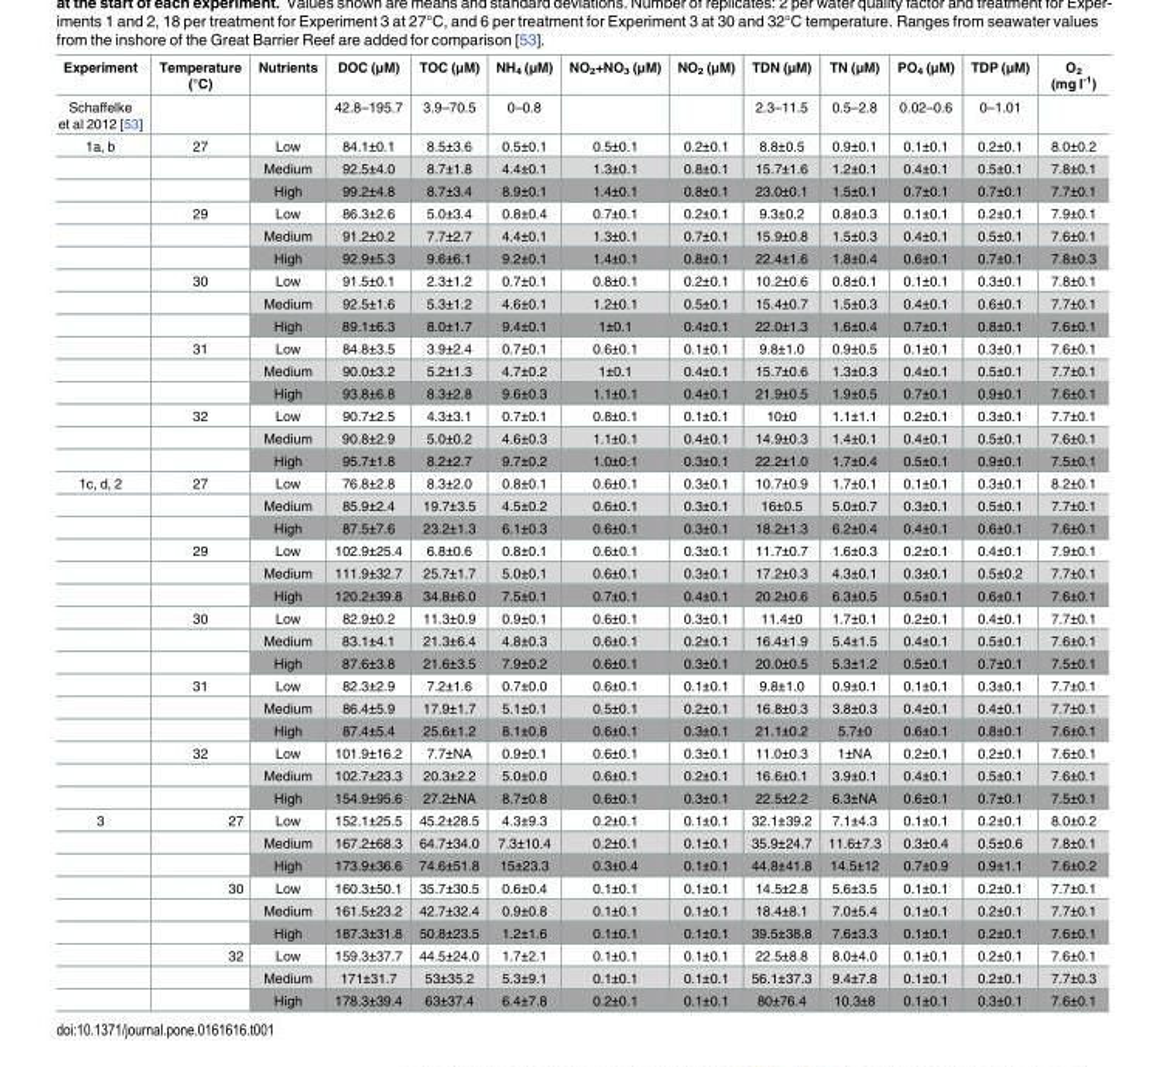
<table><thead><tr><td>Experiment</td><td>Temperature (°C)</td><td>Nutrients</td><td>DOC (μM)</td><td>TOC (μM)</td><td>NH<sub>4</sub> (μM)</td><td>NO<sub>2</sub>+NO<sub>3</sub> (μM)</td><td>NO<sub>2</sub> (μM)</td><td>TDN (μM)</td><td>TN (μM)</td><td>PO<sub>4</sub> (μM)</td><td>TDP (μM)</td><td>O<sub>2</sub> (mg l<sup>-1</sup>)</td></tr></thead><tbody><tr><td>Schaffelke et al 2012 [53]</td><td></td><td></td><td>42.8–195.7</td><td>3.9–70.5</td><td>0–0.8</td><td></td><td></td><td>2.3–11.5</td><td>0.5–2.8</td><td>0.02–0.6</td><td>0–1.01</td><td></td></tr><tr><td rowspan="15">1a, b</td><td>27</td><td>Low</td><td>84.1±0.1</td><td>8.5±3.6</td><td>0.5±0.1</td><td>0.5±0.1</td><td>0.2±0.1</td><td>8.8±0.5</td><td>0.9±0.1</td><td>0.1±0.1</td><td>0.2±0.1</td><td>8.0±0.2</td></tr><tr><td></td><td>Medium</td><td>92.5±4.0</td><td>8.7±1.8</td><td>4.4±0.1</td><td>1.3±0.1</td><td>0.8±0.1</td><td>15.7±1.6</td><td>1.2±0.1</td><td>0.4±0.1</td><td>0.5±0.1</td><td>7.8±0.1</td></tr><tr><td></td><td>High</td><td>99.2±4.8</td><td>8.7±3.4</td><td>8.9±0.1</td><td>1.4±0.1</td><td>0.8±0.1</td><td>23.0±0.1</td><td>1.5±0.1</td><td>0.7±0.1</td><td>0.7±0.1</td><td>7.7±0.1</td></tr><tr><td>29</td><td>Low</td><td>86.3±2.6</td><td>5.0±3.4</td><td>0.8±0.4</td><td>0.7±0.1</td><td>0.2±0.1</td><td>9.3±0.2</td><td>0.8±0.3</td><td>0.1±0.1</td><td>0.2±0.1</td><td>7.9±0.1</td></tr><tr><td></td><td>Medium</td><td>91.2±0.2</td><td>7.7±2.7</td><td>4.4±0.1</td><td>1.3±0.1</td><td>0.7±0.1</td><td>15.9±0.8</td><td>1.5±0.3</td><td>0.4±0.1</td><td>0.5±0.1</td><td>7.6±0.1</td></tr><tr><td></td><td>High</td><td>92.9±5.3</td><td>9.6±6.1</td><td>9.2±0.1</td><td>1.4±0.1</td><td>0.8±0.1</td><td>22.4±1.6</td><td>1.8±0.4</td><td>0.6±0.1</td><td>0.7±0.1</td><td>7.8±0.3</td></tr><tr><td>30</td><td>Low</td><td>91.5±0.1</td><td>2.3±1.2</td><td>0.7±0.1</td><td>0.8±0.1</td><td>0.2±0.1</td><td>10.2±0.6</td><td>0.8±0.1</td><td>0.1±0.1</td><td>0.3±0.1</td><td>7.8±0.1</td></tr><tr><td></td><td>Medium</td><td>92.5±1.6</td><td>5.3±1.2</td><td>4.6±0.1</td><td>1.2±0.1</td><td>0.5±0.1</td><td>15.4±0.7</td><td>1.5±0.3</td><td>0.4±0.1</td><td>0.6±0.1</td><td>7.7±0.1</td></tr><tr><td></td><td>High</td><td>89.1±6.3</td><td>8.0±1.7</td><td>9.4±0.1</td><td>1±0.1</td><td>0.4±0.1</td><td>22.0±1.3</td><td>1.6±0.4</td><td>0.7±0.1</td><td>0.8±0.1</td><td>7.6±0.1</td></tr><tr><td>31</td><td>Low</td><td>84.8±3.5</td><td>3.9±2.4</td><td>0.7±0.1</td><td>0.6±0.1</td><td>0.1±0.1</td><td>9.8±1.0</td><td>0.9±0.5</td><td>0.1±0.1</td><td>0.3±0.1</td><td>7.6±0.1</td></tr><tr><td></td><td>Medium</td><td>90.0±3.2</td><td>5.2±1.3</td><td>4.7±0.2</td><td>1±0.1</td><td>0.4±0.1</td><td>15.7±0.6</td><td>1.3±0.3</td><td>0.4±0.1</td><td>0.5±0.1</td><td>7.7±0.1</td></tr><tr><td></td><td>High</td><td>93.8±6.8</td><td>8.3±2.8</td><td>9.6±0.3</td><td>1.1±0.1</td><td>0.4±0.1</td><td>21.9±0.5</td><td>1.9±0.5</td><td>0.7±0.1</td><td>0.9±0.1</td><td>7.6±0.1</td></tr><tr><td>32</td><td>Low</td><td>90.7±2.5</td><td>4.3±3.1</td><td>0.7±0.1</td><td>0.8±0.1</td><td>0.1±0.1</td><td>10±0</td><td>1.1±1.1</td><td>0.2±0.1</td><td>0.3±0.1</td><td>7.7±0.1</td></tr><tr><td></td><td>Medium</td><td>90.8±2.9</td><td>5.0±0.2</td><td>4.6±0.3</td><td>1.1±0.1</td><td>0.4±0.1</td><td>14.9±0.3</td><td>1.4±0.1</td><td>0.4±0.1</td><td>0.5±0.1</td><td>7.6±0.1</td></tr><tr><td></td><td>High</td><td>95.7±1.8</td><td>8.2±2.7</td><td>9.7±0.2</td><td>1.0±0.1</td><td>0.3±0.1</td><td>22.2±1.0</td><td>1.7±0.4</td><td>0.5±0.1</td><td>0.9±0.1</td><td>7.5±0.1</td></tr><tr><td rowspan="15">1c, d, 2</td><td>27</td><td>Low</td><td>76.8±2.8</td><td>8.3±2.0</td><td>0.8±0.1</td><td>0.6±0.1</td><td>0.3±0.1</td><td>10.7±0.9</td><td>1.7±0.1</td><td>0.1±0.1</td><td>0.3±0.1</td><td>8.2±0.1</td></tr><tr><td></td><td>Medium</td><td>85.9±2.4</td><td>19.7±3.5</td><td>4.5±0.2</td><td>0.6±0.1</td><td>0.3±0.1</td><td>16±0.5</td><td>5.0±0.7</td><td>0.3±0.1</td><td>0.5±0.1</td><td>7.7±0.1</td></tr><tr><td></td><td>High</td><td>87.5±7.6</td><td>23.2±1.3</td><td>6.1±0.3</td><td>0.6±0.1</td><td>0.3±0.1</td><td>18.2±1.3</td><td>6.2±0.4</td><td>0.4±0.1</td><td>0.6±0.1</td><td>7.6±0.1</td></tr><tr><td>29</td><td>Low</td><td>102.9±25.4</td><td>6.8±0.6</td><td>0.8±0.1</td><td>0.6±0.1</td><td>0.3±0.1</td><td>11.7±0.7</td><td>1.6±0.3</td><td>0.2±0.1</td><td>0.4±0.1</td><td>7.9±0.1</td></tr><tr><td></td><td>Medium</td><td>111.9±32.7</td><td>25.7±1.7</td><td>5.0±0.1</td><td>0.6±0.1</td><td>0.3±0.1</td><td>17.2±0.3</td><td>4.3±0.1</td><td>0.3±0.1</td><td>0.5±0.2</td><td>7.7±0.1</td></tr><tr><td></td><td>High</td><td>120.2±39.8</td><td>34.8±6.0</td><td>7.5±0.1</td><td>0.7±0.1</td><td>0.4±0.1</td><td>20.2±0.6</td><td>6.3±0.5</td><td>0.5±0.1</td><td>0.6±0.1</td><td>7.6±0.1</td></tr><tr><td>30</td><td>Low</td><td>82.9±0.2</td><td>11.3±0.9</td><td>0.9±0.1</td><td>0.6±0.1</td><td>0.3±0.1</td><td>11.4±0</td><td>1.7±0.1</td><td>0.2±0.1</td><td>0.4±0.1</td><td>7.7±0.1</td></tr><tr><td></td><td>Medium</td><td>83.1±4.1</td><td>21.3±6.4</td><td>4.8±0.3</td><td>0.6±0.1</td><td>0.2±0.1</td><td>16.4±1.9</td><td>5.4±1.5</td><td>0.4±0.1</td><td>0.5±0.1</td><td>7.6±0.1</td></tr><tr><td></td><td>High</td><td>87.6±3.8</td><td>21.6±3.5</td><td>7.9±0.2</td><td>0.6±0.1</td><td>0.3±0.1</td><td>20.0±0.5</td><td>5.3±1.2</td><td>0.5±0.1</td><td>0.7±0.1</td><td>7.5±0.1</td></tr><tr><td>31</td><td>Low</td><td>82.3±2.9</td><td>7.2±1.6</td><td>0.7±0.0</td><td>0.6±0.1</td><td>0.1±0.1</td><td>9.8±1.0</td><td>0.9±0.1</td><td>0.1±0.1</td><td>0.3±0.1</td><td>7.7±0.1</td></tr><tr><td></td><td>Medium</td><td>86.4±5.9</td><td>17.9±1.7</td><td>5.1±0.1</td><td>0.5±0.1</td><td>0.2±0.1</td><td>16.8±0.3</td><td>3.8±0.3</td><td>0.4±0.1</td><td>0.4±0.1</td><td>7.7±0.1</td></tr><tr><td></td><td>High</td><td>87.4±5.4</td><td>25.6±1.2</td><td>8.1±0.8</td><td>0.6±0.1</td><td>0.3±0.1</td><td>21.1±0.2</td><td>5.7±0</td><td>0.6±0.1</td><td>0.8±0.1</td><td>7.6±0.1</td></tr><tr><td>32</td><td>Low</td><td>101.9±16.2</td><td>7.7±NA</td><td>0.9±0.1</td><td>0.6±0.1</td><td>0.3±0.1</td><td>11.0±0.3</td><td>1±NA</td><td>0.2±0.1</td><td>0.2±0.1</td><td>7.6±0.1</td></tr><tr><td></td><td>Medium</td><td>102.7±23.3</td><td>20.3±2.2</td><td>5.0±0.0</td><td>0.6±0.1</td><td>0.2±0.1</td><td>16.6±0.1</td><td>3.9±0.1</td><td>0.4±0.1</td><td>0.5±0.1</td><td>7.6±0.1</td></tr><tr><td></td><td>High</td><td>154.9±95.6</td><td>27.2±NA</td><td>8.7±0.8</td><td>0.6±0.1</td><td>0.3±0.1</td><td>22.5±2.2</td><td>6.3±NA</td><td>0.6±0.1</td><td>0.7±0.1</td><td>7.5±0.1</td></tr><tr><td rowspan="9">3</td><td>27</td><td>Low</td><td>152.1±25.5</td><td>45.2±28.5</td><td>4.3±9.3</td><td>0.2±0.1</td><td>0.1±0.1</td><td>32.1±39.2</td><td>7.1±4.3</td><td>0.1±0.1</td><td>0.2±0.1</td><td>8.0±0.2</td></tr><tr><td></td><td>Medium</td><td>167.2±68.3</td><td>64.7±34.0</td><td>7.3±10.4</td><td>0.2±0.1</td><td>0.1±0.1</td><td>35.9±24.7</td><td>11.6±7.3</td><td>0.3±0.4</td><td>0.5±0.6</td><td>7.8±0.1</td></tr><tr><td></td><td>High</td><td>173.9±36.6</td><td>74.6±51.8</td><td>15±23.3</td><td>0.3±0.4</td><td>0.1±0.1</td><td>44.8±41.8</td><td>14.5±12</td><td>0.7±0.9</td><td>0.9±1.1</td><td>7.6±0.2</td></tr><tr><td>30</td><td>Low</td><td>160.3±50.1</td><td>35.7±30.5</td><td>0.6±0.4</td><td>0.1±0.1</td><td>0.1±0.1</td><td>14.5±2.8</td><td>5.6±3.5</td><td>0.1±0.1</td><td>0.2±0.1</td><td>7.7±0.1</td></tr><tr><td></td><td>Medium</td><td>161.5±23.2</td><td>42.7±32.4</td><td>0.9±0.8</td><td>0.1±0.1</td><td>0.1±0.1</td><td>18.4±8.1</td><td>7.0±5.4</td><td>0.1±0.1</td><td>0.2±0.1</td><td>7.7±0.1</td></tr><tr><td></td><td>High</td><td>187.3±31.8</td><td>50.8±23.5</td><td>1.2±1.6</td><td>0.1±0.1</td><td>0.1±0.1</td><td>39.5±38.8</td><td>7.6±3.3</td><td>0.1±0.1</td><td>0.2±0.1</td><td>7.6±0.1</td></tr><tr><td>32</td><td>Low</td><td>159.3±37.7</td><td>44.5±24.0</td><td>1.7±2.1</td><td>0.1±0.1</td><td>0.1±0.1</td><td>22.5±8.8</td><td>8.0±4.0</td><td>0.1±0.1</td><td>0.2±0.1</td><td>7.6±0.1</td></tr><tr><td></td><td>Medium</td><td>171±31.7</td><td>53±35.2</td><td>5.3±9.1</td><td>0.1±0.1</td><td>0.1±0.1</td><td>56.1±37.3</td><td>9.4±7.8</td><td>0.1±0.1</td><td>0.2±0.1</td><td>7.7±0.3</td></tr><tr><td></td><td>High</td><td>178.3±39.4</td><td>63±37.4</td><td>6.4±7.8</td><td>0.2±0.1</td><td>0.1±0.1</td><td>80±76.4</td><td>10.3±8</td><td>0.1±0.1</td><td>0.3±0.1</td><td>7.6±0.1</td></tr></tbody></table>